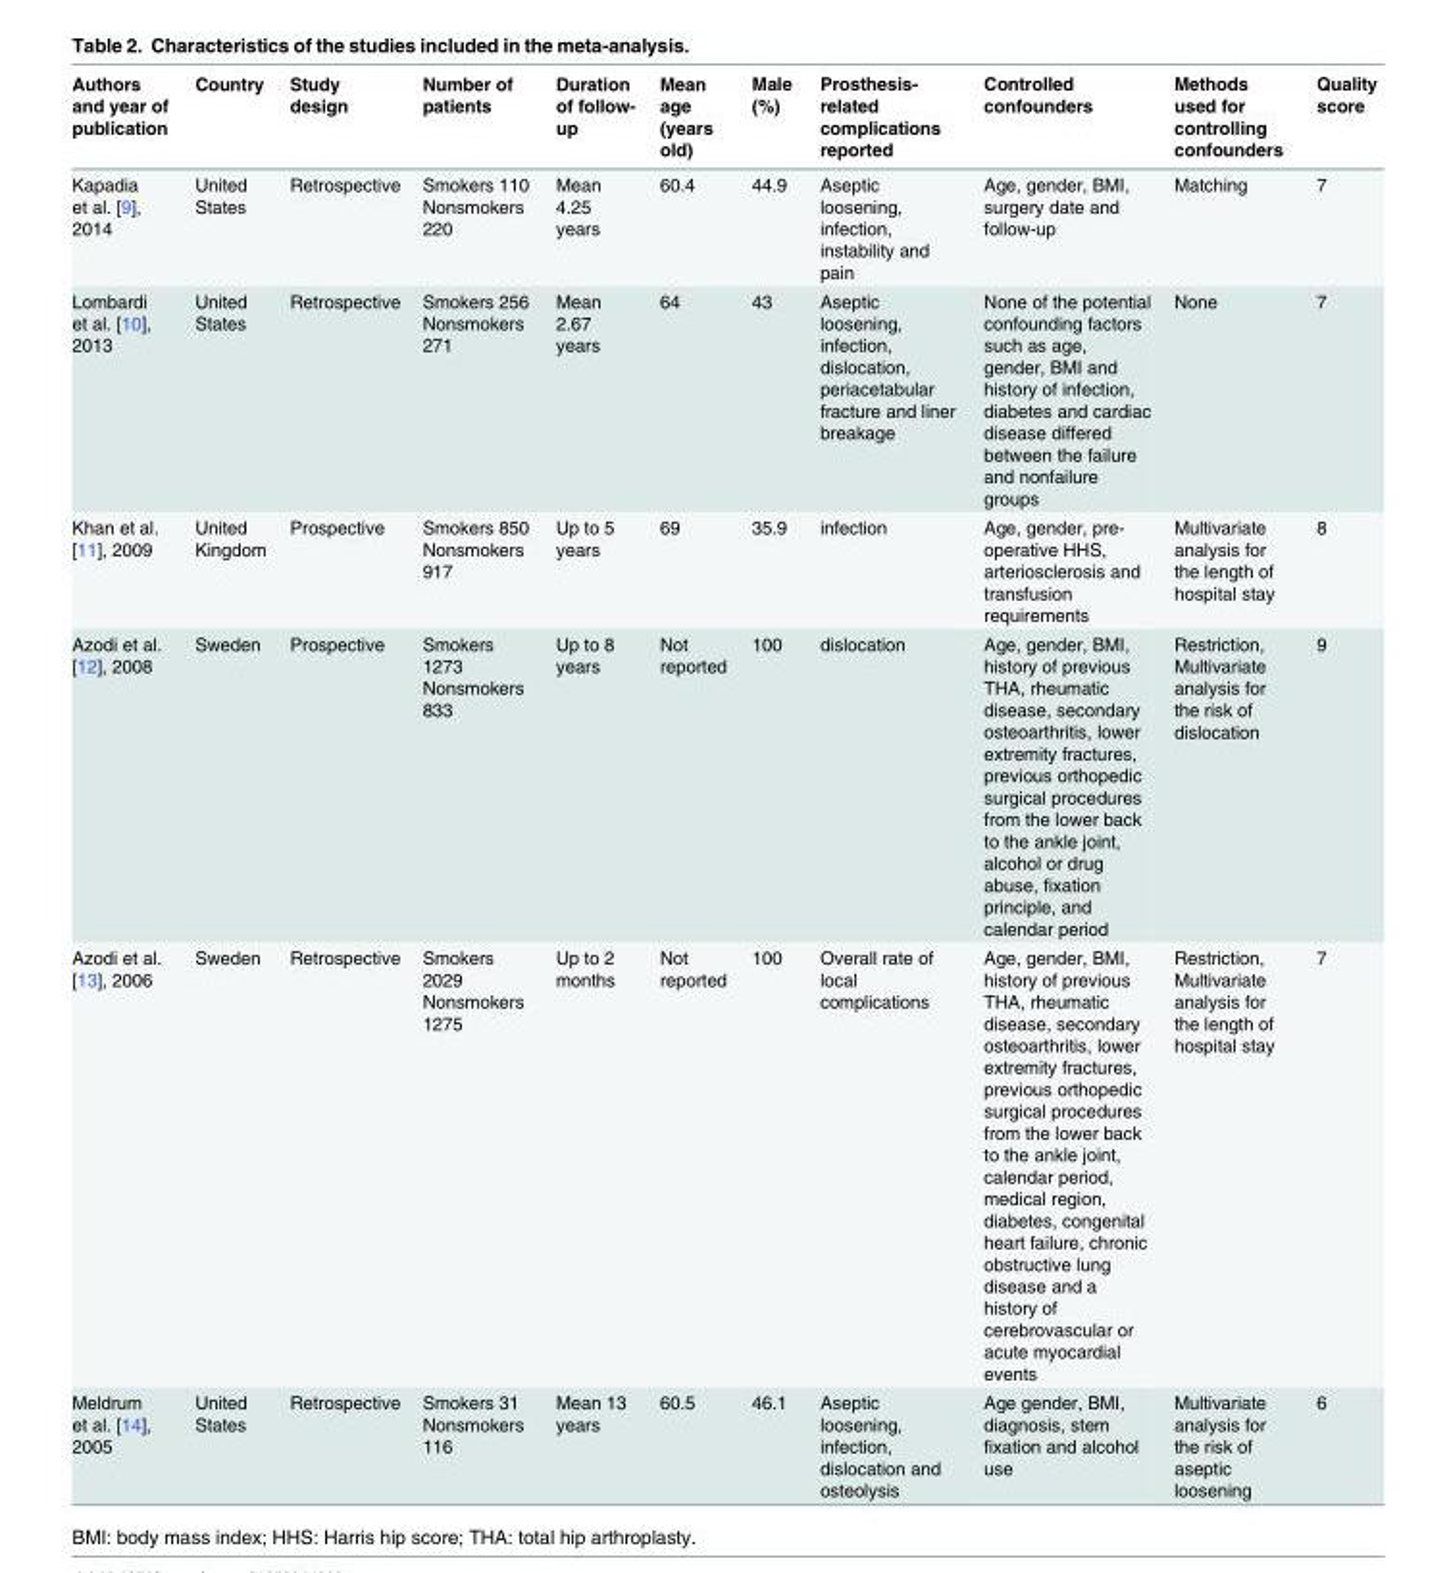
<table><thead><tr><td>Authors and year of publication</td><td>Country</td><td>Study design</td><td>Number of patients</td><td>Duration of follow- up</td><td>Mean age (years old)</td><td>Male (%)</td><td>Prosthesis- related complications reported</td><td>Controlled confounders</td><td>Methods used for controlling confounders</td><td>Quality score</td></tr></thead><tbody><tr><td>Kapadia et al. [9], 2014</td><td>United States</td><td>Retrospective</td><td>Smokers 110 Nonsmokers 220</td><td>Mean 4.25 years</td><td>60.4</td><td>44.9</td><td>Aseptic loosening, infection, instability and pain</td><td>Age, gender, BMI, surgery date and follow-up</td><td>Matching</td><td>7</td></tr><tr><td>Lombardi et al. [10], 2013</td><td>United States</td><td>Retrospective</td><td>Smokers 256 Nonsmokers 271</td><td>Mean 2.67 years</td><td>64</td><td>43</td><td>Aseptic loosening, infection, dislocation, periacetabular fracture and liner breakage</td><td>None of the potential confounding factors such as age, gender, BMI and history of infection, diabetes and cardiac disease differed between the failure and nonfailure groups</td><td>None</td><td>7</td></tr><tr><td>Khan et al. [11], 2009</td><td>United Kingdom</td><td>Prospective</td><td>Smokers 850 Nonsmokers 917</td><td>Up to 5 years</td><td>69</td><td>35.9</td><td>infection</td><td>Age, gender, pre- operative HHS, arteriosclerosis and transfusion requirements</td><td>Multivariate analysis for the length of hospital stay</td><td>8</td></tr><tr><td>Azodi et al. [12], 2008</td><td>Sweden</td><td>Prospective</td><td>Smokers 1273 Nonsmokers 833</td><td>Up to 8 years</td><td>Not reported</td><td>100</td><td>dislocation</td><td>Age, gender, BMI, history of previous THA, rheumatic disease, secondary osteoarthritis, lower extremity fractures, previous orthopedic surgical procedures from the lower back to the ankle joint, alcohol or drug abuse, fixation principle, and calendar period</td><td>Restriction, Multivariate analysis for the risk of dislocation</td><td>9</td></tr><tr><td>Azodi et al. [13], 2006</td><td>Sweden</td><td>Retrospective</td><td>Smokers 2029 Nonsmokers 1275</td><td>Up to 2 months</td><td>Not reported</td><td>100</td><td>Overall rate of local complications</td><td>Age, gender, BMI, history of previous THA, rheumatic disease, secondary osteoarthritis, lower extremity fractures, previous orthopedic surgical procedures from the lower back to the ankle joint, calendar period, medical region, diabetes, congenital heart failure, chronic obstructive lung disease and a history of cerebrovascular or acute myocardial events</td><td>Restriction, Multivariate analysis for the length of hospital stay</td><td>7</td></tr><tr><td>Meldrum et al. [14], 2005</td><td>United States</td><td>Retrospective</td><td>Smokers 31 Nonsmokers 116</td><td>Mean 13 years</td><td>60.5</td><td>46.1</td><td>Aseptic loosening, infection, dislocation and osteolysis</td><td>Age gender, BMI, diagnosis, stem fixation and alcohol use</td><td>Multivariate analysis for the risk of aseptic loosening</td><td>6</td></tr></tbody></table>